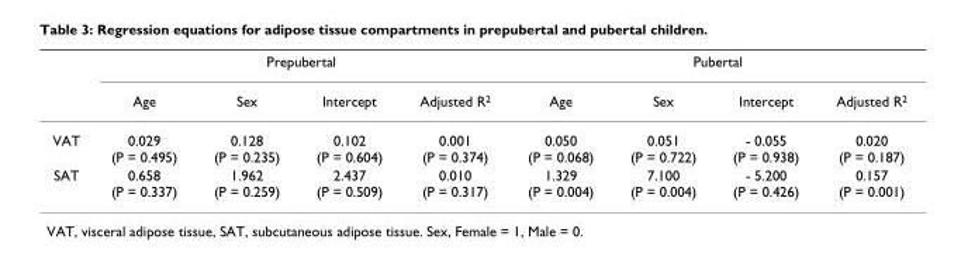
<table><thead><tr><td rowspan="2"></td><td colspan="4">Prepubertal</td><td colspan="4">Pubertal</td></tr><tr><td>Age</td><td>Sex</td><td>Intercept</td><td>Adjusted R<sup>2</sup></td><td>Age</td><td>Sex</td><td>Intercept</td><td>Adjusted R<sup>2</sup></td></tr></thead><tbody><tr><td>VAT</td><td>0.029 (P = 0.495)</td><td>0.128 (P = 0.235)</td><td>0.102 (P = 0.604)</td><td>0.001 (P = 0.374)</td><td>0.050 (P = 0.068)</td><td>0.051 (P = 0.722)</td><td>- 0.055 (P = 0.938)</td><td>0.020 (P = 0.187)</td></tr><tr><td>SAT</td><td>0.658 (P = 0.337)</td><td>1.962 (P = 0.259)</td><td>2.437 (P = 0.509)</td><td>0.010 (P = 0.317)</td><td>1.329 (P = 0.004)</td><td>7.100 (P = 0.004)</td><td>- 5.200 (P = 0.426)</td><td>0.157 (P = 0.001)</td></tr></tbody></table>